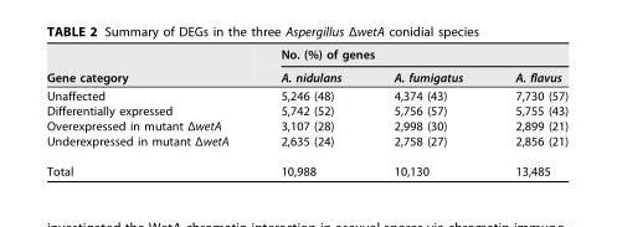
<table><thead><tr><td rowspan="2">Gene category</td><td colspan="3">No. (%) of genes</td></tr><tr><td>A. nidulans</td><td>A. fumigatus</td><td>A. flavus</td></tr></thead><tbody><tr><td>Unaffected</td><td>5,246 (48)</td><td>4,374 (43)</td><td>7,730 (57)</td></tr><tr><td>Differentially expressed</td><td>5,742 (52)</td><td>5,756 (57)</td><td>5,755 (43)</td></tr><tr><td>Overexpressed in mutant ΔwetA</td><td>3,107 (28)</td><td>2,998 (30)</td><td>2,899 (21)</td></tr><tr><td>Underexpressed in mutant ΔwetA</td><td>2,635 (24)</td><td>2,758 (27)</td><td>2,856 (21)</td></tr><tr><td>Total</td><td>10,988</td><td>10,130</td><td>13,485</td></tr></tbody></table>